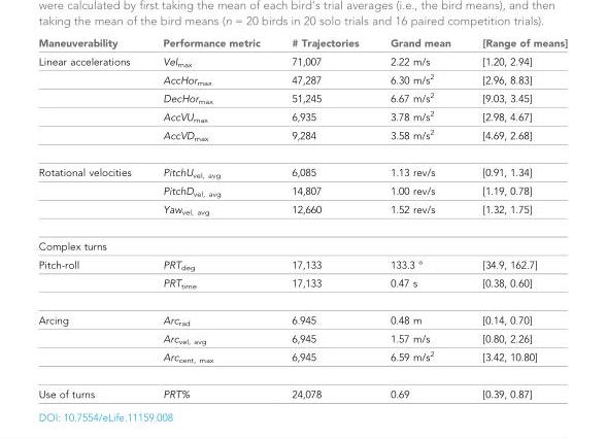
<table><thead><tr><td>Maneuverability</td><td>Performance metric</td><td># Trajectories</td><td>Grand mean</td><td>[Range of means]</td></tr></thead><tbody><tr><td rowspan="5">Linear accelerations</td><td>Vel<sub>max</sub></td><td>71,007</td><td>2.22 m/s</td><td>[1.20, 2.94]</td></tr><tr><td>AccHor<sub>max</sub></td><td>47,287</td><td>6.30 m/s<sup>2</sup></td><td>[2.96, 8.83]</td></tr><tr><td>DecHor<sub>max</sub></td><td>51,245</td><td>6.67 m/s<sup>2</sup></td><td>[9.03, 3.45]</td></tr><tr><td>AccVU<sub>max</sub></td><td>6,935</td><td>3.78 m/s<sup>2</sup></td><td>[2.98, 4.67]</td></tr><tr><td>AccVD<sub>max</sub></td><td>9,284</td><td>3.58 m/s<sup>2</sup></td><td>[4.69, 2.68]</td></tr><tr><td rowspan="3">Rotational velocities</td><td>PitchU<sub>vel, avg</sub></td><td>6,085</td><td>1.13 rev/s</td><td>[0.91, 1.34]</td></tr><tr><td>PitchD<sub>vel, avg</sub></td><td>14,807</td><td>1.00 rev/s</td><td>[1.19, 0.78]</td></tr><tr><td>Yaw<sub>vel, avg</sub></td><td>12,660</td><td>1.52 rev/s</td><td>[1.32, 1.75]</td></tr><tr><td colspan="5">Complex turns</td></tr><tr><td rowspan="2">Pitch-roll</td><td>PRT<sub>deg</sub></td><td>17,133</td><td>133.3 º</td><td>[34.9, 162.7]</td></tr><tr><td>PRT<sub>time</sub></td><td>17,133</td><td>0.47 s</td><td>[0.38, 0.60]</td></tr><tr><td rowspan="3">Arcing</td><td>Arc<sub>rad</sub></td><td>6.945</td><td>0.48 m</td><td>[0.14, 0.70]</td></tr><tr><td>Arc<sub>vel, avg</sub></td><td>6,945</td><td>1.57 m/s</td><td>[0.80, 2.26]</td></tr><tr><td>Arc<sub>cent, max</sub></td><td>6,945</td><td>6.59 m/s<sup>2</sup></td><td>[3.42, 10.80]</td></tr><tr><td>Use of turns</td><td>PRT%</td><td>24,078</td><td>0.69</td><td>[0.39, 0.87]</td></tr></tbody></table>